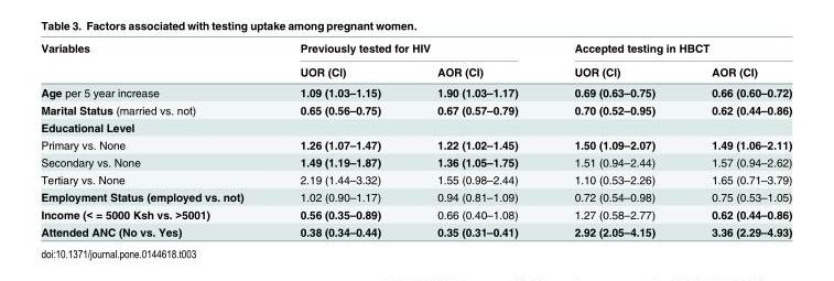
<table><thead><tr><td rowspan="2">Variables</td><td colspan="2">Previously tested for HIV</td><td colspan="2">Accepted testing in HBCT</td></tr><tr><td>UOR (CI)</td><td>AOR (CI)</td><td>UOR (CI)</td><td>AOR (CI)</td></tr></thead><tbody><tr><td>Age per 5 year increase</td><td>1.09 (1.03–1.15)</td><td>1.90 (1.03–1.17)</td><td>0.69 (0.63–0.75)</td><td>0.66 (0.60–0.72)</td></tr><tr><td>Marital Status (married vs. not)</td><td>0.65 (0.56–0.75)</td><td>0.67 (0.57–0.79)</td><td>0.70 (0.52–0.95)</td><td>0.62 (0.44–0.86)</td></tr><tr><td colspan="5">Educational Level</td></tr><tr><td>Primary vs. None</td><td>1.26 (1.07–1.47)</td><td>1.22 (1.02–1.45)</td><td>1.50 (1.09–2.07)</td><td>1.49 (1.06–2.11)</td></tr><tr><td>Secondary vs. None</td><td>1.49 (1.19–1.87)</td><td>1.36 (1.05–1.75)</td><td>1.51 (0.94–2.44)</td><td>1.57 (0.94–2.62)</td></tr><tr><td>Tertiary vs. None</td><td>2.19 (1.44–3.32)</td><td>1.55 (0.98–2.44)</td><td>1.10 (0.53–2.26)</td><td>1.65 (0.71–3.79)</td></tr><tr><td>Employment Status (employed vs. not)</td><td>1.02 (0.90–1.17)</td><td>0.94 (0.81–1.09)</td><td>0.72 (0.54–0.98)</td><td>0.75 (0.53–1.05)</td></tr><tr><td>Income (&lt; = 5000 Ksh vs. &gt;5001)</td><td>0.56 (0.35–0.89)</td><td>0.66 (0.40–1.08)</td><td>1.27 (0.58–2.77)</td><td>0.62 (0.44–0.86)</td></tr><tr><td>Attended ANC (No vs. Yes)</td><td>0.38 (0.34–0.44)</td><td>0.35 (0.31–0.41)</td><td>2.92 (2.05–4.15)</td><td>3.36 (2.29–4.93)</td></tr></tbody></table>